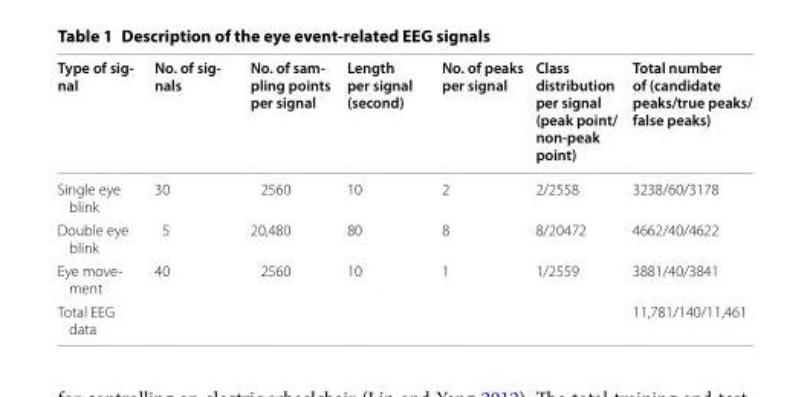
<table><thead><tr><td>Type of sig‑ nal</td><td>No. of sig‑ nals</td><td>No. of sam‑ pling points per signal</td><td>Length per signal (second)</td><td>No. of peaks per signal</td><td>Class distribution per signal (peak point/ non‑peak point)</td><td>Total number of (candidate peaks/true peaks/ false peaks)</td></tr></thead><tbody><tr><td>Single eye blink</td><td>30</td><td>2560</td><td>10</td><td>2</td><td>2/2558</td><td>3238/60/3178</td></tr><tr><td>Double eye blink</td><td>5</td><td>20,480</td><td>80</td><td>8</td><td>8/20472</td><td>4662/40/4622</td></tr><tr><td>Eye move- ment</td><td>40</td><td>2560</td><td>10</td><td>1</td><td>1/2559</td><td>3881/40/3841</td></tr><tr><td>Total EEG data</td><td></td><td></td><td></td><td></td><td></td><td>11,781/140/11,461</td></tr></tbody></table>